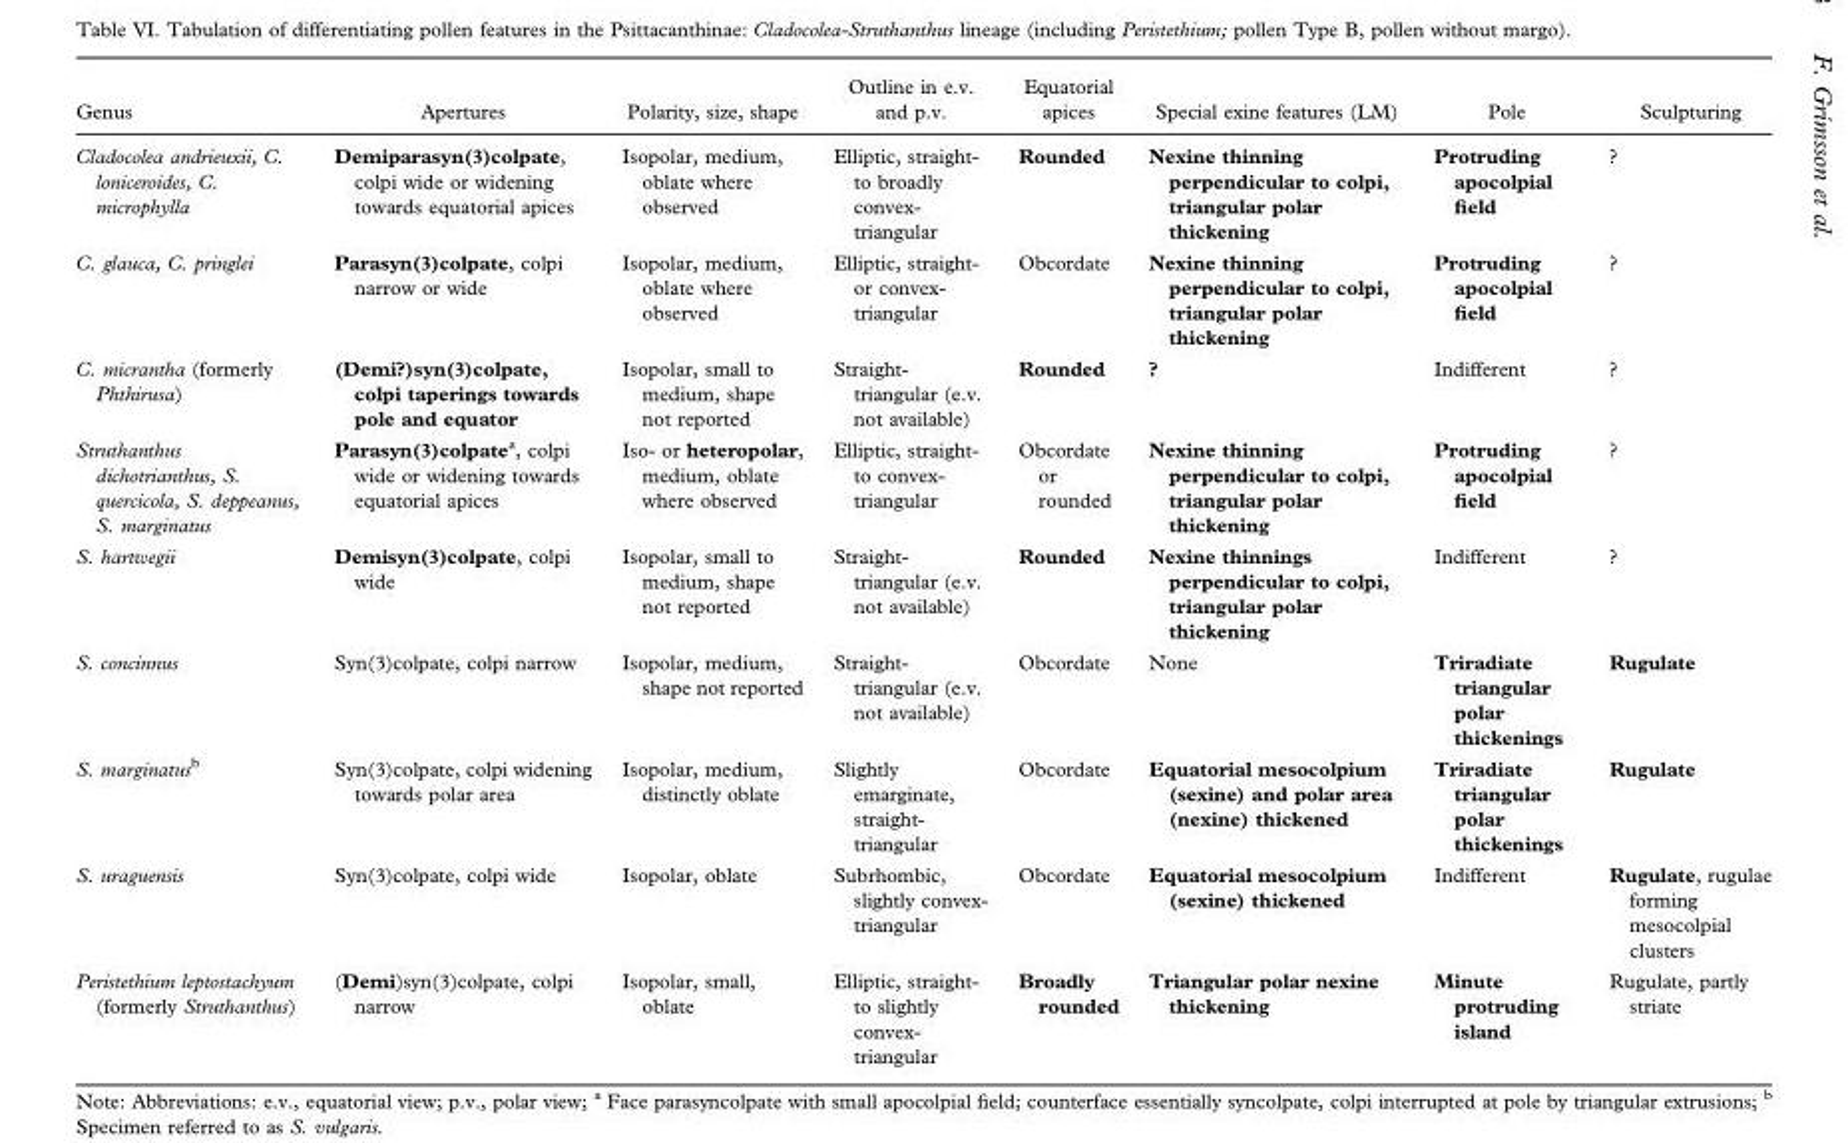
<table><thead><tr><td>Genus</td><td>Apertures</td><td>Polarity, size, shape</td><td>Outline in e.v. and p.v.</td><td>Equatorial apices</td><td>Special exine features (LM)</td><td>Pole</td><td>Sculpturing</td></tr></thead><tbody><tr><td>Cladocolea andrieuxii, C. loniceroides, C. microphylla</td><td>Demiparasyn(3)colpate, colpi wide or widening towards equatorial apices</td><td>Isopolar, medium, oblate where observed</td><td>Elliptic, straight- to broadly convex- triangular</td><td>Rounded</td><td>Nexine thinning perpendicular to colpi, triangular polar thickening</td><td>Protruding apocolpial field</td><td>?</td></tr><tr><td>C. glauca, C. pringlei</td><td>Parasyn(3)colpate, colpi narrow or wide</td><td>Isopolar, medium, oblate where observed</td><td>Elliptic, straight- or convex- triangular</td><td>Obcordate</td><td>Nexine thinning perpendicular to colpi, triangular polar thickening</td><td>Protruding apocolpial field</td><td>?</td></tr><tr><td>C. micrantha (formerly Phthirusa)</td><td>(Demi?)syn(3)colpate, colpi taperings towards pole and equator</td><td>Isopolar, small to medium, shape not reported</td><td>Straight- triangular (e.v. not available)</td><td>Rounded</td><td>?</td><td>Indifferent</td><td>?</td></tr><tr><td>Struthanthus dichotrianthus, S. quercicola, S. deppeanus, S. marginatus</td><td>Parasyn(3)colpate<sup>a</sup>, colpi wide or widening towards equatorial apices</td><td>Iso- or heteropolar, medium, oblate where observed</td><td>Elliptic, straight- to convex- triangular</td><td>Obcordate or rounded</td><td>Nexine thinning perpendicular to colpi, triangular polar thickening</td><td>Protruding apocolpial field</td><td>?</td></tr><tr><td>S. hartwegii</td><td>Demisyn(3)colpate, colpi wide</td><td>Isopolar, small to medium, shape not reported</td><td>Straight- triangular (e.v. not available)</td><td>Rounded</td><td>Nexine thinnings perpendicular to colpi, triangular polar thickening</td><td>Indifferent</td><td>?</td></tr><tr><td>S. concinnus</td><td>Syn(3)colpate, colpi narrow</td><td>Isopolar, medium, shape not reported</td><td>Straight- triangular (e.v. not available)</td><td>Obcordate</td><td>None</td><td>Triradiate triangular polar thickenings</td><td>Rugulate</td></tr><tr><td>S. marginatus<sup>b</sup></td><td>Syn(3)colpate, colpi widening towards polar area</td><td>Isopolar, medium, distinctly oblate</td><td>Slightly emarginate, straight- triangular</td><td>Obcordate</td><td>Equatorial mesocolpium (sexine) and polar area (nexine) thickened</td><td>Triradiate triangular polar thickenings</td><td>Rugulate</td></tr><tr><td>S. uraguensis</td><td>Syn(3)colpate, colpi wide</td><td>Isopolar, oblate</td><td>Subrhombic, slightly convex- triangular</td><td>Obcordate</td><td>Equatorial mesocolpium (sexine) thickened</td><td>Indifferent</td><td>Rugulate, rugulae forming mesocolpial clusters</td></tr><tr><td>Peristethium leptostachyum (formerly Struthanthus)</td><td>(Demi)syn(3)colpate, colpi narrow</td><td>Isopolar, small, oblate</td><td>Elliptic, straight- to slightly convex- triangular</td><td>Broadly rounded</td><td>Triangular polar nexine thickening</td><td>Minute protruding island</td><td>Rugulate, partly striate</td></tr></tbody></table>